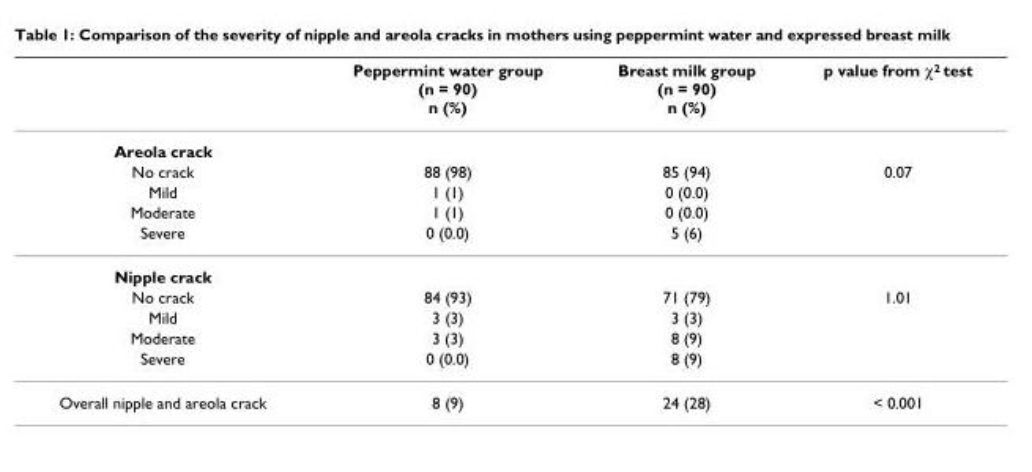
<table><thead><tr><td></td><td>Peppermint water group (n = 90) n (%)</td><td>Breast milk group (n = 90) n (%)</td><td>p value from χ2 test</td></tr></thead><tbody><tr><td colspan="4">Areola crack</td></tr><tr><td>No crack</td><td>88 (98)</td><td>85 (94)</td><td>0.07</td></tr><tr><td>Mild</td><td>1 (1)</td><td>0 (0.0)</td><td></td></tr><tr><td>Moderate</td><td>1 (1)</td><td>0 (0.0)</td><td></td></tr><tr><td>Severe</td><td>0 (0.0)</td><td>5 (6)</td><td></td></tr><tr><td colspan="4">Nipple crack</td></tr><tr><td>No crack</td><td>84 (93)</td><td>71 (79)</td><td>1.01</td></tr><tr><td>Mild</td><td>3 (3)</td><td>3 (3)</td><td></td></tr><tr><td>Moderate</td><td>3 (3)</td><td>8 (9)</td><td></td></tr><tr><td>Severe</td><td>0 (0.0)</td><td>8 (9)</td><td></td></tr><tr><td>Overall nipple and areola crack</td><td>8 (9)</td><td>24 (28)</td><td>&lt; 0.001</td></tr></tbody></table>